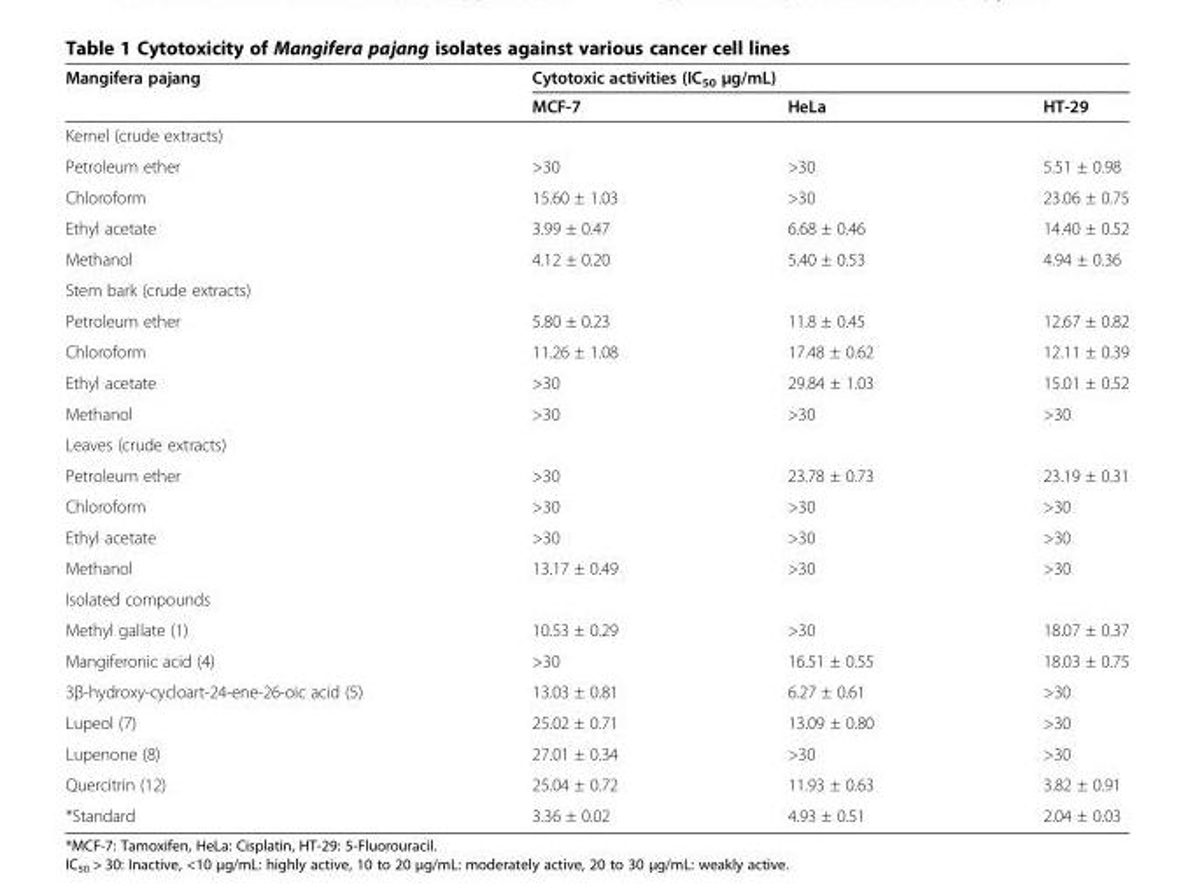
<table><thead><tr><td rowspan="2">Mangifera pajang</td><td colspan="3">Cytotoxic activities (IC<sub>50</sub> μg/mL)</td></tr><tr><td>MCF-7</td><td>HeLa</td><td>HT-29</td></tr></thead><tbody><tr><td colspan="4">Kernel (crude extracts)</td></tr><tr><td>Petroleum ether</td><td>&gt;30</td><td>&gt;30</td><td>5.51 ± 0.98</td></tr><tr><td>Chloroform</td><td>15.60 ± 1.03</td><td>&gt;30</td><td>23.06 ± 0.75</td></tr><tr><td>Ethyl acetate</td><td>3.99 ± 0.47</td><td>6.68 ± 0.46</td><td>14.40 ± 0.52</td></tr><tr><td>Methanol</td><td>4.12 ± 0.20</td><td>5.40 ± 0.53</td><td>4.94 ± 0.36</td></tr><tr><td colspan="4">Stem bark (crude extracts)</td></tr><tr><td>Petroleum ether</td><td>5.80 ± 0.23</td><td>11.8 ± 0.45</td><td>12.67 ± 0.82</td></tr><tr><td>Chloroform</td><td>11.26 ± 1.08</td><td>17.48 ± 0.62</td><td>12.11 ± 0.39</td></tr><tr><td>Ethyl acetate</td><td>&gt;30</td><td>29.84 ± 1.03</td><td>15.01 ± 0.52</td></tr><tr><td>Methanol</td><td>&gt;30</td><td>&gt;30</td><td>&gt;30</td></tr><tr><td colspan="4">Leaves (crude extracts)</td></tr><tr><td>Petroleum ether</td><td>&gt;30</td><td>23.78 ± 0.73</td><td>23.19 ± 0.31</td></tr><tr><td>Chloroform</td><td>&gt;30</td><td>&gt;30</td><td>&gt;30</td></tr><tr><td>Ethyl acetate</td><td>&gt;30</td><td>&gt;30</td><td>&gt;30</td></tr><tr><td>Methanol</td><td>13.17 ± 0.49</td><td>&gt;30</td><td>&gt;30</td></tr><tr><td colspan="4">Isolated compounds</td></tr><tr><td>Methyl gallate (1)</td><td>10.53 ± 0.29</td><td>&gt;30</td><td>18.07 ± 0.37</td></tr><tr><td>Mangiferonic acid (4)</td><td>&gt;30</td><td>16.51 ± 0.55</td><td>18.03 ± 0.75</td></tr><tr><td>3β-hydroxy-cycloart-24-ene-26-oic acid (5)</td><td>13.03 ± 0.81</td><td>6.27 ± 0.61</td><td>&gt;30</td></tr><tr><td>Lupeol (7)</td><td>25.02 ± 0.71</td><td>13.09 ± 0.80</td><td>&gt;30</td></tr><tr><td>Lupenone (8)</td><td>27.01 ± 0.34</td><td>&gt;30</td><td>&gt;30</td></tr><tr><td>Quercitrin (12)</td><td>25.04 ± 0.72</td><td>11.93 ± 0.63</td><td>3.82 ± 0.91</td></tr><tr><td>*Standard</td><td>3.36 ± 0.02</td><td>4.93 ± 0.51</td><td>2.04 ± 0.03</td></tr></tbody></table>